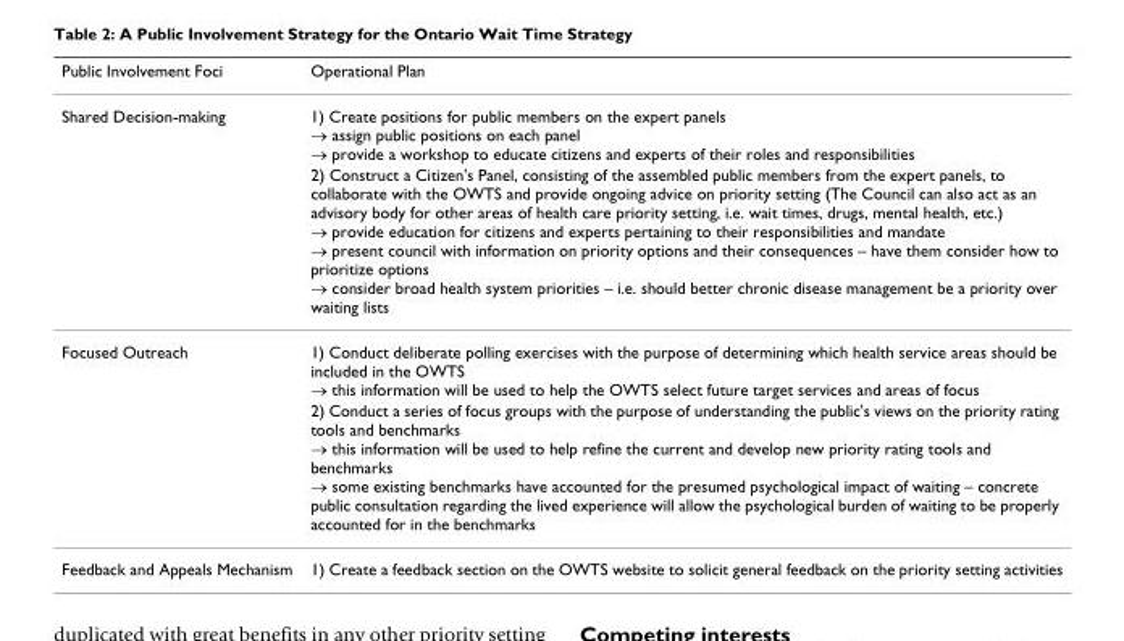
<table><thead><tr><td>Public Involvement Foci</td><td>Operational Plan</td></tr></thead><tbody><tr><td rowspan="2">Shared Decision-making</td><td>1) Create positions for public members on the expert panels → assign public positions on each panel → provide a workshop to educate citizens and experts of their roles and responsibilities</td></tr><tr><td>2) Construct a Citizen&#x27;s Panel, consisting of the assembled public members from the expert panels, to collaborate with the OWTS and provide ongoing advice on priority setting (The Council can also act as an advisory body for other areas of health care priority setting, i.e. wait times, drugs, mental health, etc.) → provide education for citizens and experts pertaining to their responsibilities and mandate → present council with information on priority options and their consequences – have them consider how to prioritize options → consider broad health system priorities – i.e. should better chronic disease management be a priority over waiting lists</td></tr><tr><td rowspan="2">Focused Outreach</td><td>1) Conduct deliberate polling exercises with the purpose of determining which health service areas should be included in the OWTS → this information will be used to help the OWTS select future target services and areas of focus</td></tr><tr><td>2) Conduct a series of focus groups with the purpose of understanding the public&#x27;s views on the priority rating tools and benchmarks → this information will be used to help refine the current and develop new priority rating tools and benchmarks → some existing benchmarks have accounted for the presumed psychological impact of waiting – concrete public consultation regarding the lived experience will allow the psychological burden of waiting to be properly accounted for in the benchmarks</td></tr><tr><td>Feedback and Appeals Mechanism</td><td>1) Create a feedback section on the OWTS website to solicit general feedback on the priority setting activities</td></tr></tbody></table>